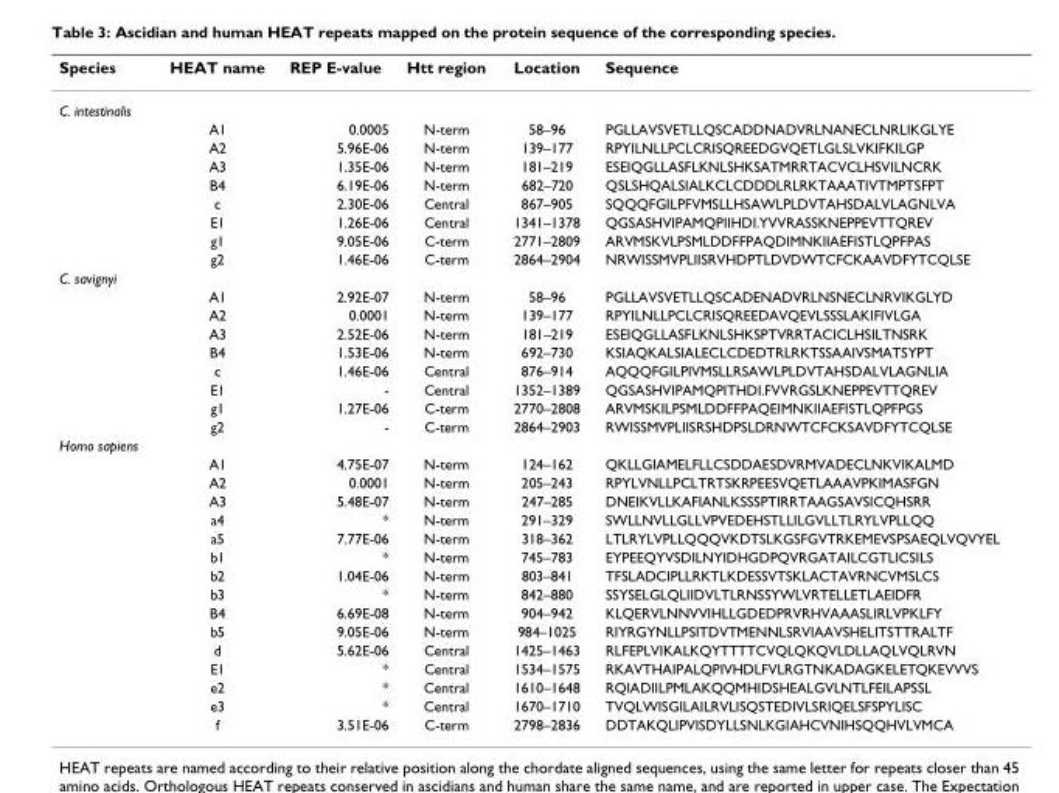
<table><thead><tr><td>Species</td><td>HEAT name</td><td>REP E-value</td><td>Htt region</td><td>Location</td><td>Sequence</td></tr></thead><tbody><tr><td colspan="6">C. intestinalis</td></tr><tr><td></td><td>A1</td><td>0.0005</td><td>N-term</td><td>58–96</td><td>PGLLAVSVETLLQSCADDNADVRLNANECLNRLIKGLYE</td></tr><tr><td></td><td>A2</td><td>5.96E-06</td><td>N-term</td><td>139–177</td><td>RPYILNLLPCLCRISQREEDGVQETLGLSLVKIFKILGP</td></tr><tr><td></td><td>A3</td><td>1.35E-06</td><td>N-term</td><td>181–219</td><td>ESEIQGLLASFLKNLSHKSATMRRTACVCLHSVILNCRK</td></tr><tr><td></td><td>B4</td><td>6.19E-06</td><td>N-term</td><td>682–720</td><td>QSLSHQALSIALKCLCDDDLRLRKTAAATIVTMPTSFPT</td></tr><tr><td></td><td>c</td><td>2.30E-06</td><td>Central</td><td>867–905</td><td>SQQQFGILPFVMSLLHSAWLPLDVTAHSDALVLAGNLVA</td></tr><tr><td></td><td>E1</td><td>1.26E-06</td><td>Central</td><td>1341–1378</td><td>QGSASHVIPAMQPIIHDI.YVVRASSKNEPPEVTTQREV</td></tr><tr><td></td><td>g1</td><td>9.05E-06</td><td>C-term</td><td>2771–2809</td><td>ARVMSKVLPSMLDDFFPAQDIMNKIIAEFISTLQPFPAS</td></tr><tr><td></td><td>g2</td><td>1.46E-06</td><td>C-term</td><td>2864–2904</td><td>NRWISSMVPLIISRVHDPTLDVDWTCFCKAAVDFYTCQLSE</td></tr><tr><td colspan="6">C. savignyi</td></tr><tr><td></td><td>A1</td><td>2.92E-07</td><td>N-term</td><td>58–96</td><td>PGLLAVSVETLLQSCADENADVRLNSNECLNRVIKGLYD</td></tr><tr><td></td><td>A2</td><td>0.0001</td><td>N-term</td><td>139–177</td><td>RPYILNLLPCLCRISQREEDAVQEVLSSSLAKIFIVLGA</td></tr><tr><td></td><td>A3</td><td>2.52E-06</td><td>N-term</td><td>181–219</td><td>ESEIQGLLASFLKNLSHKSPTVRRTACICLHSILTNSRK</td></tr><tr><td></td><td>B4</td><td>1.53E-06</td><td>N-term</td><td>692–730</td><td>KSIAQKALSIALECLCDEDTRLRKTSSAAIVSMATSYPT</td></tr><tr><td></td><td>c</td><td>1.46E-06</td><td>Central</td><td>876–914</td><td>AQQQFGILPIVMSLLRSAWLPLDVTAHSDALVLAGNLIA</td></tr><tr><td></td><td>E1</td><td>-</td><td>Central</td><td>1352–1389</td><td>QGSASHVIPAMQPITHDI.FVVRGSLKNEPPEVTTQREV</td></tr><tr><td></td><td>g1</td><td>1.27E-06</td><td>C-term</td><td>2770–2808</td><td>ARVMSKILPSMLDDFFPAQEIMNKIIAEFISTLQPFPGS</td></tr><tr><td></td><td>g2</td><td>-</td><td>C-term</td><td>2864–2903</td><td>RWISSMVPLIISRSHDPSLDRNWTCFCKSAVDFYTCQLSE</td></tr><tr><td colspan="6">Homo sapiens</td></tr><tr><td></td><td>A1</td><td>4.75E-07</td><td>N-term</td><td>124–162</td><td>QKLLGIAMELFLLCSDDAESDVRMVADECLNKVIKALMD</td></tr><tr><td></td><td>A2</td><td>0.0001</td><td>N-term</td><td>205–243</td><td>RPYLVNLLPCLTRTSKRPEESVQETLAAAVPKIMASFGN</td></tr><tr><td></td><td>A3</td><td>5.48E-07</td><td>N-term</td><td>247–285</td><td>DNEIKVLLKAFIANLKSSSPTIRRTAAGSAVSICQHSRR</td></tr><tr><td></td><td>a4</td><td>*</td><td>N-term</td><td>291–329</td><td>SWLLNVLLGLLVPVEDEHSTLLILGVLLTLRYLVPLLQQ</td></tr><tr><td></td><td>a5</td><td>7.77E-06</td><td>N-term</td><td>318–362</td><td>LTLRYLVPLLQQQVKDTSLKGSFGVTRKEMEVSPSAEQLVQVYEL</td></tr><tr><td></td><td>b1</td><td>*</td><td>N-term</td><td>745–783</td><td>EYPEEQYVSDILNYIDHGDPQVRGATAILCGTLICSILS</td></tr><tr><td></td><td>b2</td><td>1.04E-06</td><td>N-term</td><td>803–841</td><td>TFSLADCIPLLRKTLKDESSVTSKLACTAVRNCVMSLCS</td></tr><tr><td></td><td>b3</td><td>*</td><td>N-term</td><td>842–880</td><td>SSYSELGLQLIIDVLTLRNSSYWLVRTELLETLAEIDFR</td></tr><tr><td></td><td>B4</td><td>6.69E-08</td><td>N-term</td><td>904–942</td><td>KLQERVLNNVVIHLLGDEDPRVRHVAAASLIRLVPKLFY</td></tr><tr><td></td><td>b5</td><td>9.05E-06</td><td>N-term</td><td>984–1025</td><td>RIYRGYNLLPSITDVTMENNLSRVIAAVSHELITSTTRALTF</td></tr><tr><td></td><td>d</td><td>5.62E-06</td><td>Central</td><td>1425–1463</td><td>RLFEPLVIKALKQYTTTTCVQLQKQVLDLLAQLVQLRVN</td></tr><tr><td></td><td>E1</td><td>*</td><td>Central</td><td>1534–1575</td><td>RKAVTHAIPALQPIVHDLFVLRGTNKADAGKELETQKEVVVS</td></tr><tr><td></td><td>e2</td><td>*</td><td>Central</td><td>1610–1648</td><td>RQIADIILPMLAKQQMHIDSHEALGVLNTLFEILAPSSL</td></tr><tr><td></td><td>e3</td><td>*</td><td>Central</td><td>1670–1710</td><td>TVQLWISGILAILRVLISQSTEDIVLSRIQELSFSPYLISC</td></tr><tr><td></td><td>f</td><td>3.51E-06</td><td>C-term</td><td>2798–2836</td><td>DDTAKQLIPVISDYLLSNLKGIAHCVNIHSQQHVLVMCA</td></tr></tbody></table>